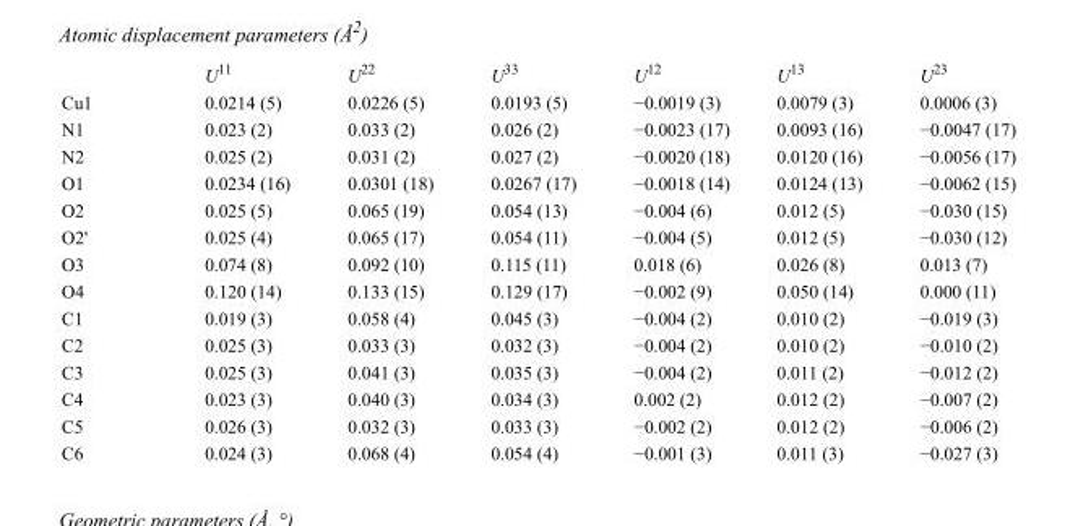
<table><thead><tr><td></td><td>U<sup>11</sup></td><td>U<sup>22</sup></td><td>U<sup>33</sup></td><td>U<sup>12</sup></td><td>U<sup>13</sup></td><td>U<sup>23</sup></td></tr></thead><tbody><tr><td>Cu1</td><td>0.0214 (5)</td><td>0.0226 (5)</td><td>0.0193 (5)</td><td>−0.0019 (3)</td><td>0.0079 (3)</td><td>0.0006 (3)</td></tr><tr><td>N1</td><td>0.023 (2)</td><td>0.033 (2)</td><td>0.026 (2)</td><td>−0.0023 (17)</td><td>0.0093 (16)</td><td>−0.0047 (17)</td></tr><tr><td>N2</td><td>0.025 (2)</td><td>0.031 (2)</td><td>0.027 (2)</td><td>−0.0020 (18)</td><td>0.0120 (16)</td><td>−0.0056 (17)</td></tr><tr><td>O1</td><td>0.0234 (16)</td><td>0.0301 (18)</td><td>0.0267 (17)</td><td>−0.0018 (14)</td><td>0.0124 (13)</td><td>−0.0062 (15)</td></tr><tr><td>O2</td><td>0.025 (5)</td><td>0.065 (19)</td><td>0.054 (13)</td><td>−0.004 (6)</td><td>0.012 (5)</td><td>−0.030 (15)</td></tr><tr><td>O2&#x27;</td><td>0.025 (4)</td><td>0.065 (17)</td><td>0.054 (11)</td><td>−0.004 (5)</td><td>0.012 (5)</td><td>−0.030 (12)</td></tr><tr><td>O3</td><td>0.074 (8)</td><td>0.092 (10)</td><td>0.115 (11)</td><td>0.018 (6)</td><td>0.026 (8)</td><td>0.013 (7)</td></tr><tr><td>O4</td><td>0.120 (14)</td><td>0.133 (15)</td><td>0.129 (17)</td><td>−0.002 (9)</td><td>0.050 (14)</td><td>0.000 (11)</td></tr><tr><td>C1</td><td>0.019 (3)</td><td>0.058 (4)</td><td>0.045 (3)</td><td>−0.004 (2)</td><td>0.010 (2)</td><td>−0.019 (3)</td></tr><tr><td>C2</td><td>0.025 (3)</td><td>0.033 (3)</td><td>0.032 (3)</td><td>−0.004 (2)</td><td>0.010 (2)</td><td>−0.010 (2)</td></tr><tr><td>C3</td><td>0.025 (3)</td><td>0.041 (3)</td><td>0.035 (3)</td><td>−0.004 (2)</td><td>0.011 (2)</td><td>−0.012 (2)</td></tr><tr><td>C4</td><td>0.023 (3)</td><td>0.040 (3)</td><td>0.034 (3)</td><td>0.002 (2)</td><td>0.012 (2)</td><td>−0.007 (2)</td></tr><tr><td>C5</td><td>0.026 (3)</td><td>0.032 (3)</td><td>0.033 (3)</td><td>−0.002 (2)</td><td>0.012 (2)</td><td>−0.006 (2)</td></tr><tr><td>C6</td><td>0.024 (3)</td><td>0.068 (4)</td><td>0.054 (4)</td><td>−0.001 (3)</td><td>0.011 (3)</td><td>−0.027 (3)</td></tr></tbody></table>